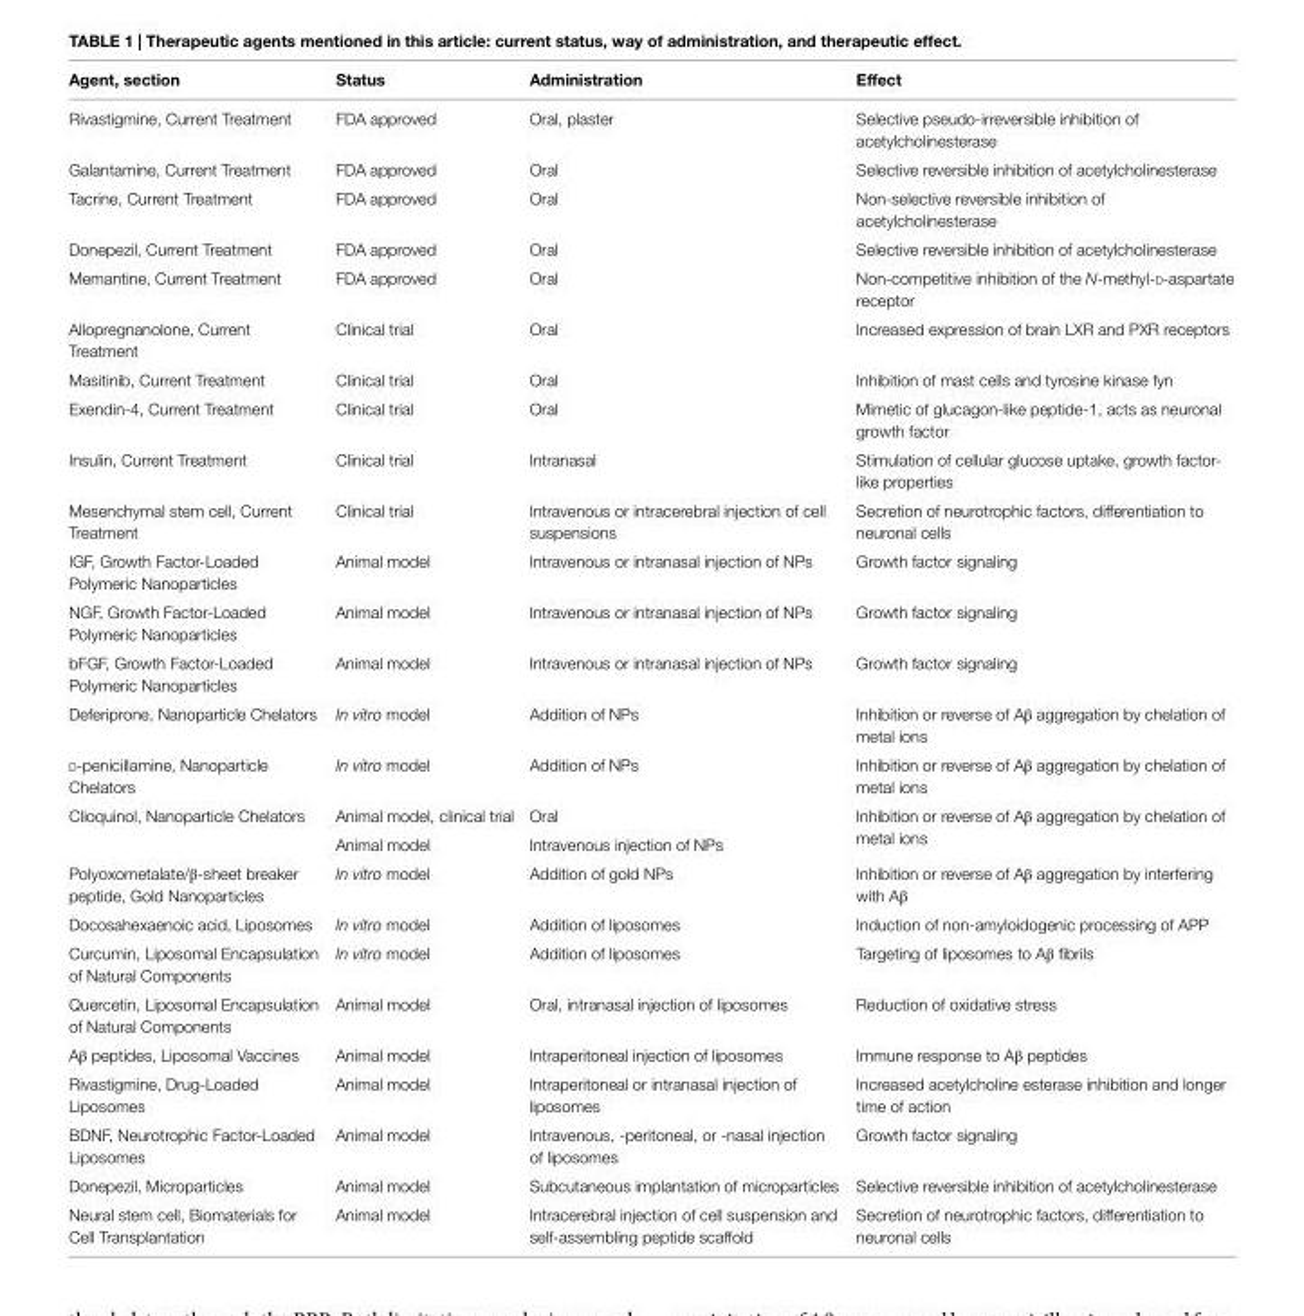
<table><thead><tr><td>Agent, section</td><td>Status</td><td>Administration</td><td>effect</td></tr></thead><tbody><tr><td>Rivastigmine, Current Treatment</td><td>FDA approved</td><td>Oral, plaster</td><td>Selective pseudo-irreversible inhibition of acetylcholinesterase</td></tr><tr><td>Galantamine, Current Treatment</td><td>FDA approved</td><td>Oral</td><td>Selective reversible inhibition of acetylcholinesterase</td></tr><tr><td>Tacrine, Current Treatment</td><td>FDA approved</td><td>Oral</td><td>Non-selective reversible inhibition of acetylcholinesterase</td></tr><tr><td>Donepezil, Current Treatment</td><td>FDA approved</td><td>Oral</td><td>Selective reversible inhibition of acetylcholinesterase</td></tr><tr><td>Memantine, Current Treatment</td><td>FDA approved</td><td>Oral</td><td>Non-competitive inhibition of the N-methyl-d-aspartate receptor</td></tr><tr><td>Allopregnanolone, Current Treatment</td><td>Clinical trial</td><td>Oral</td><td>Increased expression of brain LXR and PXR receptors</td></tr><tr><td>Masitinib, Current Treatment</td><td>Clinical trial</td><td>Oral</td><td>Inhibition of mast cells and tyrosine kinase fyn</td></tr><tr><td>Exendin-4, Current Treatment</td><td>Clinical trial</td><td>Oral</td><td>Mimetic of glucagon-like peptide-1, acts as neuronal growth factor</td></tr><tr><td>Insulin, Current Treatment</td><td>Clinical trial</td><td>Intranasal</td><td>Stimulation of cellular glucose uptake, growth factor- like properties</td></tr><tr><td>Mesenchymal stem cell, Current Treatment</td><td>Clinical trial</td><td>Intravenous or intracerebral injection of cell suspensions</td><td>Secretion of neurotrophic factors, differentiation to neuronal cells</td></tr><tr><td>IGF, Growth Factor-Loaded Polymeric Nanoparticles</td><td>Animal model</td><td>Intravenous or intranasal injection of NPs</td><td>Growth factor signaling</td></tr><tr><td>NGF, Growth Factor-Loaded Polymeric Nanoparticles</td><td>Animal model</td><td>Intravenous or intranasal injection of NPs</td><td>Growth factor signaling</td></tr><tr><td>bFGF, Growth Factor-Loaded Polymeric Nanoparticles</td><td>Animal model</td><td>Intravenous or intranasal injection of NPs</td><td>Growth factor signaling</td></tr><tr><td>Deferiprone, Nanoparticle Chelators</td><td>In vitro model</td><td>Addition of NPs</td><td>Inhibition or reverse of Aβ aggregation by chelation of metal ions</td></tr><tr><td>d-penicillamine, Nanoparticle Chelators</td><td>In vitro model</td><td>Addition of NPs</td><td>Inhibition or reverse of Aβ aggregation by chelation of metal ions</td></tr><tr><td rowspan="2">Clioquinol, Nanoparticle Chelators</td><td>Animal model, clinical trial</td><td>Oral</td><td rowspan="2">Inhibition or reverse of Aβ aggregation by chelation of metal ions</td></tr><tr><td>Animal model</td><td>Intravenous injection of NPs</td></tr><tr><td>Polyoxometalate/β-sheet breaker peptide, Gold Nanoparticles</td><td>In vitro model</td><td>Addition of gold NPs</td><td>Inhibition or reverse of Aβ aggregation by interfering with Aβ</td></tr><tr><td>Docosahexaenoic acid, Liposomes</td><td>In vitro model</td><td>Addition of liposomes</td><td>Induction of non-amyloidogenic processing of APP</td></tr><tr><td>Curcumin, Liposomal Encapsulation of Natural Components</td><td>In vitro model</td><td>Addition of liposomes</td><td>Targeting of liposomes to Aβ fibrils</td></tr><tr><td>Quercetin, Liposomal Encapsulation of Natural Components</td><td>Animal model</td><td>Oral, intranasal injection of liposomes</td><td>Reduction of oxidative stress</td></tr><tr><td>Aβ peptides, Liposomal Vaccines</td><td>Animal model</td><td>Intraperitoneal injection of liposomes</td><td>Immune response to Aβ peptides</td></tr><tr><td>Rivastigmine, Drug-Loaded Liposomes</td><td>Animal model</td><td>Intraperitoneal or intranasal injection of liposomes</td><td>Increased acetylcholine esterase inhibition and longer time of action</td></tr><tr><td>BDNF, Neurotrophic Factor-Loaded Liposomes</td><td>Animal model</td><td>Intravenous, -peritoneal, or -nasal injection of liposomes</td><td>Growth factor signaling</td></tr><tr><td>Donepezil, Microparticles</td><td>Animal model</td><td>Subcutaneous implantation of microparticles</td><td>Selective reversible inhibition of acetylcholinesterase</td></tr><tr><td>Neural stem cell, Biomaterials for Cell Transplantation</td><td>Animal model</td><td>Intracerebral injection of cell suspension and self-assembling peptide scaffold</td><td>Secretion of neurotrophic factors, differentiation to neuronal cells</td></tr></tbody></table>